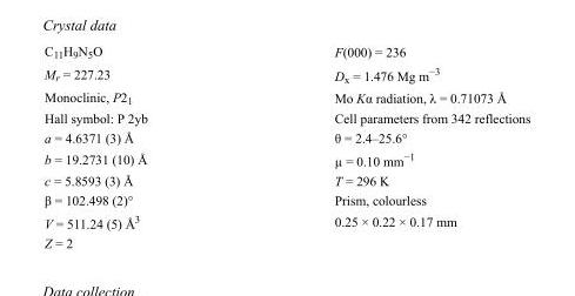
<table><tbody><tr><td>C<sub>11</sub>H<sub>9</sub>N<sub>5</sub>O</td><td>F(000) = 236</td></tr><tr><td>M<sub>r</sub> = 227.23</td><td>D<sub>x</sub> = 1.476 Mg m<sup>−3</sup></td></tr><tr><td>Monoclinic, P2<sub>1</sub></td><td>Mo Kα radiation, λ = 0.71073 Å</td></tr><tr><td>Hall symbol: P 2yb</td><td>Cell parameters from 342 reflections</td></tr><tr><td>a = 4.6371 (3) Å</td><td>θ = 2.4–25.6°</td></tr><tr><td>b = 19.2731 (10) Å</td><td>µ = 0.10 mm<sup>−1</sup></td></tr><tr><td>c = 5.8593 (3) Å</td><td>T = 296 K</td></tr><tr><td>β = 102.498 (2)°</td><td>Prism, colourless</td></tr><tr><td>V = 511.24 (5) Å<sup>3</sup></td><td>0.25 × 0.22 × 0.17 mm</td></tr><tr><td>Z = 2</td><td></td></tr></tbody></table>